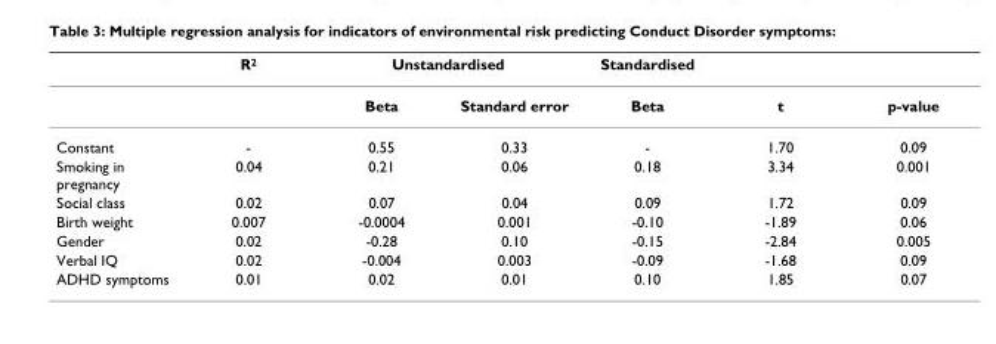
<table><thead><tr><td rowspan="2"></td><td rowspan="2">R2</td><td colspan="2">Unstandardised</td><td rowspan="2">Standardised Beta</td><td rowspan="2">t</td><td rowspan="2">p-value</td></tr><tr><td>Beta</td><td>Standard error</td></tr></thead><tbody><tr><td>Constant</td><td>-</td><td>0.55</td><td>0.33</td><td>-</td><td>1.70</td><td>0.09</td></tr><tr><td>Smoking in pregnancy</td><td>0.04</td><td>0.21</td><td>0.06</td><td>0.18</td><td>3.34</td><td>0.001</td></tr><tr><td>Social class</td><td>0.02</td><td>0.07</td><td>0.04</td><td>0.09</td><td>1.72</td><td>0.09</td></tr><tr><td>Birth weight</td><td>0.007</td><td>-0.0004</td><td>0.001</td><td>-0.10</td><td>-1.89</td><td>0.06</td></tr><tr><td>Gender</td><td>0.02</td><td>-0.28</td><td>0.10</td><td>-0.15</td><td>-2.84</td><td>0.005</td></tr><tr><td>Verbal IQ</td><td>0.02</td><td>-0.004</td><td>0.003</td><td>-0.09</td><td>-1.68</td><td>0.09</td></tr><tr><td>ADHD symptoms</td><td>0.01</td><td>0.02</td><td>0.01</td><td>0.10</td><td>1.85</td><td>0.07</td></tr></tbody></table>